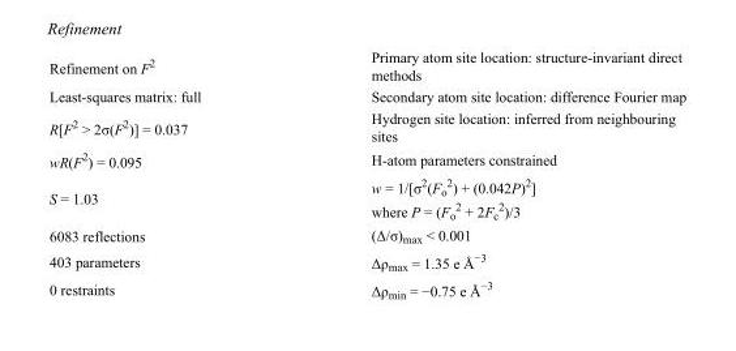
<table><tbody><tr><td>Refinement on F<sup>2</sup></td><td>Primary atom site location: structure-invariant direct methods</td></tr><tr><td>Least-squares matrix: full</td><td>Secondary atom site location: difference Fourier map</td></tr><tr><td>R[F<sup>2</sup> &gt; 2σ(F<sup>2</sup>)] = 0.037</td><td>Hydrogen site location: inferred from neighbouring sites</td></tr><tr><td>wR(F<sup>2</sup>) = 0.095</td><td>H-atom parameters constrained</td></tr><tr><td>S = 1.03</td><td>w = 1/[σ<sup>2</sup>(F<sub>o</sub> <sup>2</sup>) + (0.042P)<sup>2</sup>] where P = (F<sub>o</sub> <sup>2</sup> + 2F<sub>c</sub> <sup>2</sup>)/3</td></tr><tr><td>6083 reflections</td><td>(Δ/σ)<sub>max</sub> &lt; 0.001</td></tr><tr><td>403 parameters</td><td>Δρ<sub>max</sub> = 1.35 e Å<sup>−3</sup></td></tr><tr><td>0 restraints</td><td>Δρ<sub>min</sub> = −0.75 e Å<sup>−3</sup></td></tr></tbody></table>